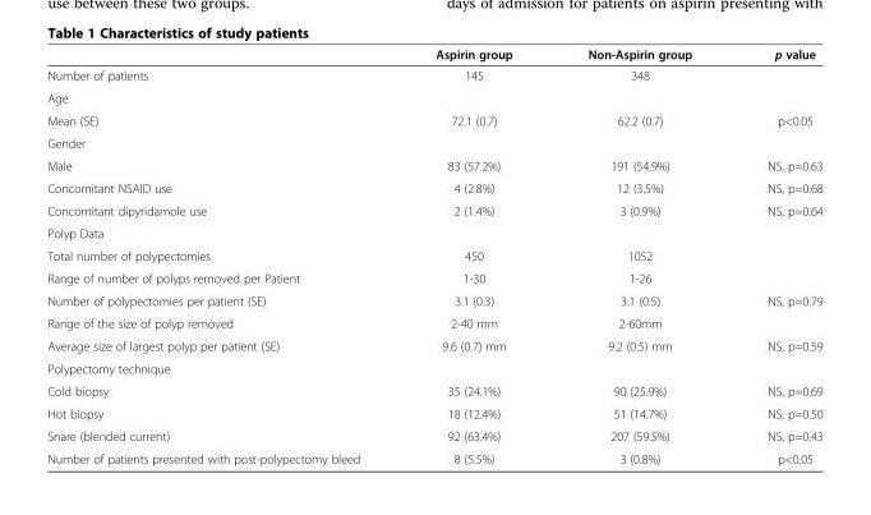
<table><thead><tr><td></td><td>Aspirin group</td><td>Non-Aspirin group</td><td>p value</td></tr></thead><tbody><tr><td>Number of patients</td><td>145</td><td>348</td><td></td></tr><tr><td colspan="4">Age</td></tr><tr><td>Mean (SE)</td><td>72.1 (0.7)</td><td>62.2 (0.7)</td><td>p&lt;0.05</td></tr><tr><td colspan="4">Gender</td></tr><tr><td>Male</td><td>83 (57.2%)</td><td>191 (54.9%)</td><td>NS, p=0.63</td></tr><tr><td>Concomitant NSAID use</td><td>4 (2.8%)</td><td>12 (3.5%)</td><td>NS, p=0.68</td></tr><tr><td>Concomitant dipyridamole use</td><td>2 (1.4%)</td><td>3 (0.9%)</td><td>NS, p=0.64</td></tr><tr><td colspan="4">Polyp Data</td></tr><tr><td>Total number of polypectomies</td><td>450</td><td>1052</td><td></td></tr><tr><td>Range of number of polyps removed per Patient</td><td>1-30</td><td>1-26</td><td></td></tr><tr><td>Number of polypectomies per patient (SE)</td><td>3.1 (0.3)</td><td>3.1 (0.5)</td><td>NS, p=0.79</td></tr><tr><td>Range of the size of polyp removed</td><td>2-40 mm</td><td>2-60mm</td><td></td></tr><tr><td>Average size of largest polyp per patient (SE)</td><td>9.6 (0.7) mm</td><td>9.2 (0.5) mm</td><td>NS, p=0.59</td></tr><tr><td colspan="4">Polypectomy technique</td></tr><tr><td>Cold biopsy</td><td>35 (24.1%)</td><td>90 (25.9%)</td><td>NS, p=0.69</td></tr><tr><td>Hot biopsy</td><td>18 (12.4%)</td><td>51 (14.7%)</td><td>NS, p=0.50</td></tr><tr><td>Snare (blended current)</td><td>92 (63.4%)</td><td>207 (59.5%)</td><td>NS, p=0.43</td></tr><tr><td>Number of patients presented with post-polypectomy bleed</td><td>8 (5.5%)</td><td>3 (0.8%)</td><td>p&lt;0.05</td></tr></tbody></table>